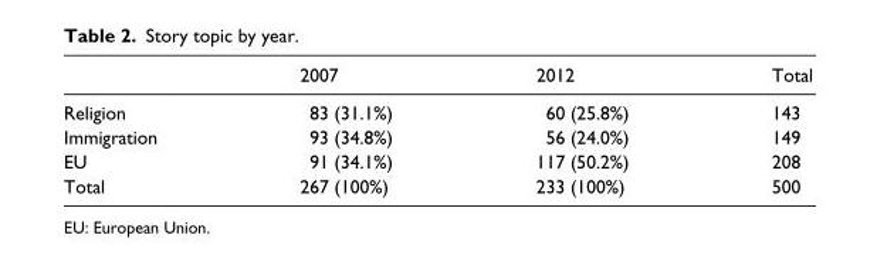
<table><thead><tr><td></td><td>2007</td><td>2012</td><td>Total</td></tr></thead><tbody><tr><td>Religion</td><td>83 (31.1%)</td><td>60 (25.8%)</td><td>143</td></tr><tr><td>Immigration</td><td>93 (34.8%)</td><td>56 (24.0%)</td><td>149</td></tr><tr><td>EU</td><td>91 (34.1%)</td><td>117 (50.2%)</td><td>208</td></tr><tr><td>Total</td><td>267 (100%)</td><td>233 (100%)</td><td>500</td></tr></tbody></table>